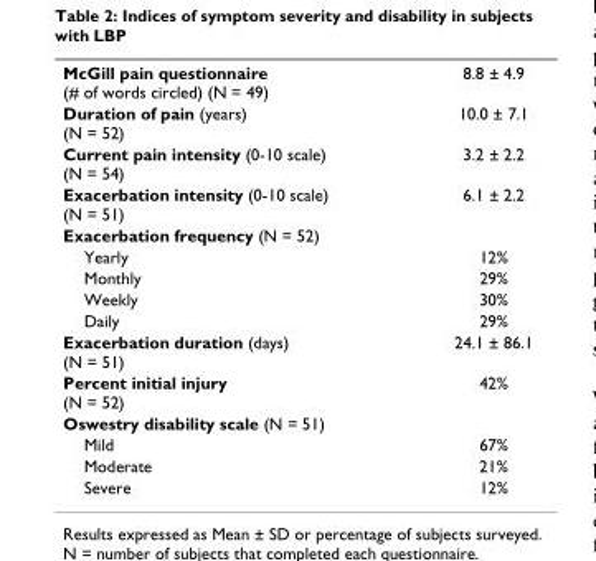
<table><tbody><tr><td>McGill pain questionnaire (# of words circled) (N = 49)</td><td>8.8 ± 4.9</td></tr><tr><td>Duration of pain (years) (N = 52)</td><td>10.0 ± 7.1</td></tr><tr><td>Current pain intensity (0-10 scale) (N = 54)</td><td>3.2 ± 2.2</td></tr><tr><td>Exacerbation intensity (0-10 scale) (N = 51)</td><td>6.1 ± 2.2</td></tr><tr><td colspan="2">Exacerbation frequency (N = 52)</td></tr><tr><td>Yearly</td><td>12%</td></tr><tr><td>Monthly</td><td>29%</td></tr><tr><td>Weekly</td><td>30%</td></tr><tr><td>Daily</td><td>29%</td></tr><tr><td>Exacerbation duration (days) (N = 51)</td><td>24.1 ± 86.1</td></tr><tr><td>Percent initial injury (N = 52)</td><td>42%</td></tr><tr><td colspan="2">Oswestry disability scale (N = 51)</td></tr><tr><td>Mild</td><td>67%</td></tr><tr><td>Moderate</td><td>21%</td></tr><tr><td>Severe</td><td>12%</td></tr></tbody></table>